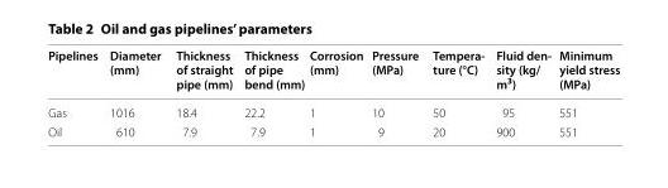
<table><thead><tr><td>Pipelines</td><td>Diameter (mm)</td><td>Thickness of straight pipe (mm)</td><td>Thickness of pipe bend (mm)</td><td>Corrosion (mm)</td><td>Pressure (MPa)</td><td>Tempera- ture (°C)</td><td>Fluid den- sity (kg/ m3)</td><td>Minimum yield stress (MPa)</td></tr></thead><tbody><tr><td>Gas</td><td>1016</td><td>18.4</td><td>22.2</td><td>1</td><td>10</td><td>50</td><td>95</td><td>551</td></tr><tr><td>Oil</td><td>610</td><td>7.9</td><td>7.9</td><td>1</td><td>9</td><td>20</td><td>900</td><td>551</td></tr></tbody></table>